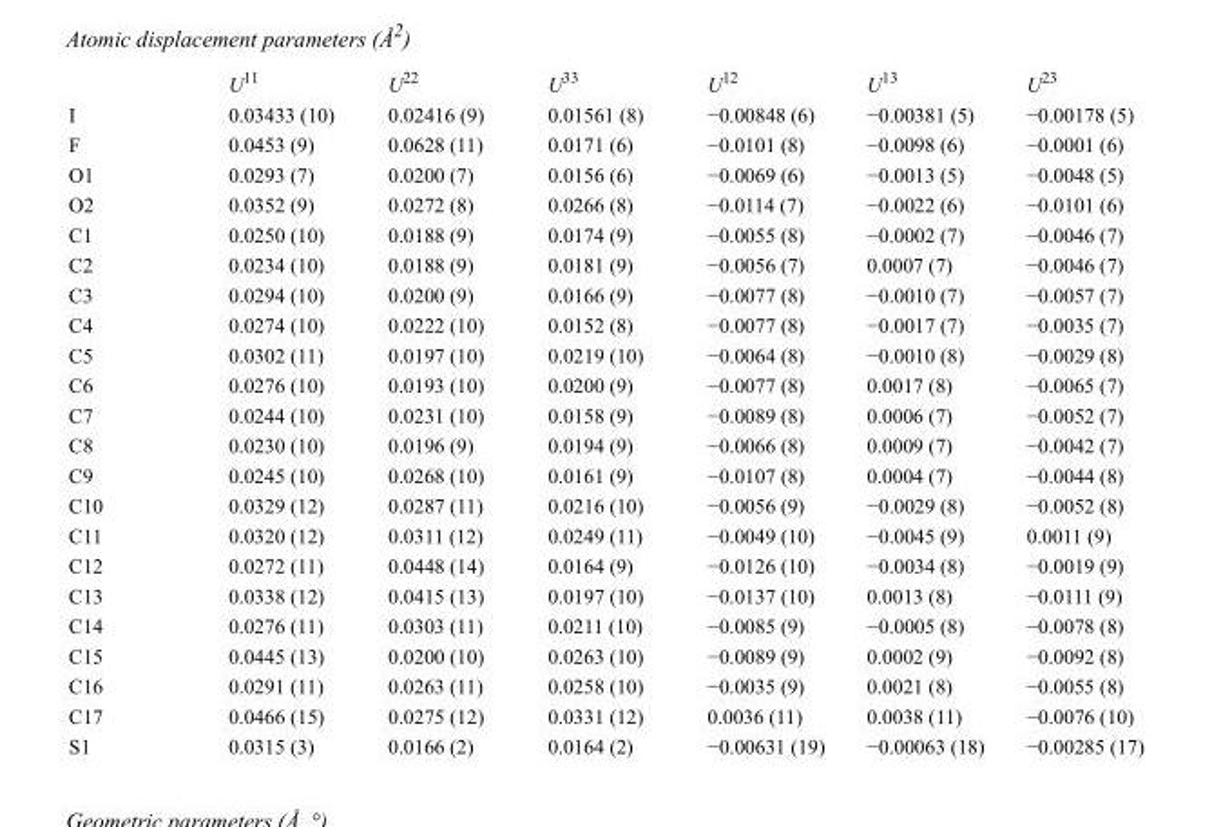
<table><thead><tr><td></td><td>U<sup>11</sup></td><td>U<sup>22</sup></td><td>U<sup>33</sup></td><td>U<sup>12</sup></td><td>U<sup>13</sup></td><td>U<sup>23</sup></td></tr></thead><tbody><tr><td>I</td><td>0.03433 (10)</td><td>0.02416 (9)</td><td>0.01561 (8)</td><td>−0.00848 (6)</td><td>−0.00381 (5)</td><td>−0.00178 (5)</td></tr><tr><td>F</td><td>0.0453 (9)</td><td>0.0628 (11)</td><td>0.0171 (6)</td><td>−0.0101 (8)</td><td>−0.0098 (6)</td><td>−0.0001 (6)</td></tr><tr><td>O1</td><td>0.0293 (7)</td><td>0.0200 (7)</td><td>0.0156 (6)</td><td>−0.0069 (6)</td><td>−0.0013 (5)</td><td>−0.0048 (5)</td></tr><tr><td>O2</td><td>0.0352 (9)</td><td>0.0272 (8)</td><td>0.0266 (8)</td><td>−0.0114 (7)</td><td>−0.0022 (6)</td><td>−0.0101 (6)</td></tr><tr><td>C1</td><td>0.0250 (10)</td><td>0.0188 (9)</td><td>0.0174 (9)</td><td>−0.0055 (8)</td><td>−0.0002 (7)</td><td>−0.0046 (7)</td></tr><tr><td>C2</td><td>0.0234 (10)</td><td>0.0188 (9)</td><td>0.0181 (9)</td><td>−0.0056 (7)</td><td>0.0007 (7)</td><td>−0.0046 (7)</td></tr><tr><td>C3</td><td>0.0294 (10)</td><td>0.0200 (9)</td><td>0.0166 (9)</td><td>−0.0077 (8)</td><td>−0.0010 (7)</td><td>−0.0057 (7)</td></tr><tr><td>C4</td><td>0.0274 (10)</td><td>0.0222 (10)</td><td>0.0152 (8)</td><td>−0.0077 (8)</td><td>−0.0017 (7)</td><td>−0.0035 (7)</td></tr><tr><td>C5</td><td>0.0302 (11)</td><td>0.0197 (10)</td><td>0.0219 (10)</td><td>−0.0064 (8)</td><td>−0.0010 (8)</td><td>−0.0029 (8)</td></tr><tr><td>C6</td><td>0.0276 (10)</td><td>0.0193 (10)</td><td>0.0200 (9)</td><td>−0.0077 (8)</td><td>0.0017 (8)</td><td>−0.0065 (7)</td></tr><tr><td>C7</td><td>0.0244 (10)</td><td>0.0231 (10)</td><td>0.0158 (9)</td><td>−0.0089 (8)</td><td>0.0006 (7)</td><td>−0.0052 (7)</td></tr><tr><td>C8</td><td>0.0230 (10)</td><td>0.0196 (9)</td><td>0.0194 (9)</td><td>−0.0066 (8)</td><td>0.0009 (7)</td><td>−0.0042 (7)</td></tr><tr><td>C9</td><td>0.0245 (10)</td><td>0.0268 (10)</td><td>0.0161 (9)</td><td>−0.0107 (8)</td><td>0.0004 (7)</td><td>−0.0044 (8)</td></tr><tr><td>C10</td><td>0.0329 (12)</td><td>0.0287 (11)</td><td>0.0216 (10)</td><td>−0.0056 (9)</td><td>−0.0029 (8)</td><td>−0.0052 (8)</td></tr><tr><td>C11</td><td>0.0320 (12)</td><td>0.0311 (12)</td><td>0.0249 (11)</td><td>−0.0049 (10)</td><td>−0.0045 (9)</td><td>0.0011 (9)</td></tr><tr><td>C12</td><td>0.0272 (11)</td><td>0.0448 (14)</td><td>0.0164 (9)</td><td>−0.0126 (10)</td><td>−0.0034 (8)</td><td>−0.0019 (9)</td></tr><tr><td>C13</td><td>0.0338 (12)</td><td>0.0415 (13)</td><td>0.0197 (10)</td><td>−0.0137 (10)</td><td>0.0013 (8)</td><td>−0.0111 (9)</td></tr><tr><td>C14</td><td>0.0276 (11)</td><td>0.0303 (11)</td><td>0.0211 (10)</td><td>−0.0085 (9)</td><td>−0.0005 (8)</td><td>−0.0078 (8)</td></tr><tr><td>C15</td><td>0.0445 (13)</td><td>0.0200 (10)</td><td>0.0263 (10)</td><td>−0.0089 (9)</td><td>0.0002 (9)</td><td>−0.0092 (8)</td></tr><tr><td>C16</td><td>0.0291 (11)</td><td>0.0263 (11)</td><td>0.0258 (10)</td><td>−0.0035 (9)</td><td>0.0021 (8)</td><td>−0.0055 (8)</td></tr><tr><td>C17</td><td>0.0466 (15)</td><td>0.0275 (12)</td><td>0.0331 (12)</td><td>0.0036 (11)</td><td>0.0038 (11)</td><td>−0.0076 (10)</td></tr><tr><td>S1</td><td>0.0315 (3)</td><td>0.0166 (2)</td><td>0.0164 (2)</td><td>−0.00631 (19)</td><td>−0.00063 (18)</td><td>−0.00285 (17)</td></tr></tbody></table>